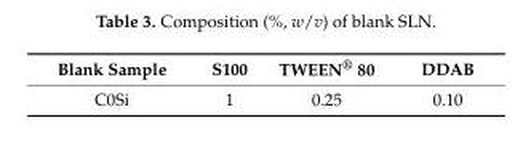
<table><thead><tr><td>Blank Sample</td><td>S100</td><td>TWEEN<sup>®</sup> 80</td><td>DDAB</td></tr></thead><tbody><tr><td>C0Si</td><td>1</td><td>0.25</td><td>0.10</td></tr></tbody></table>